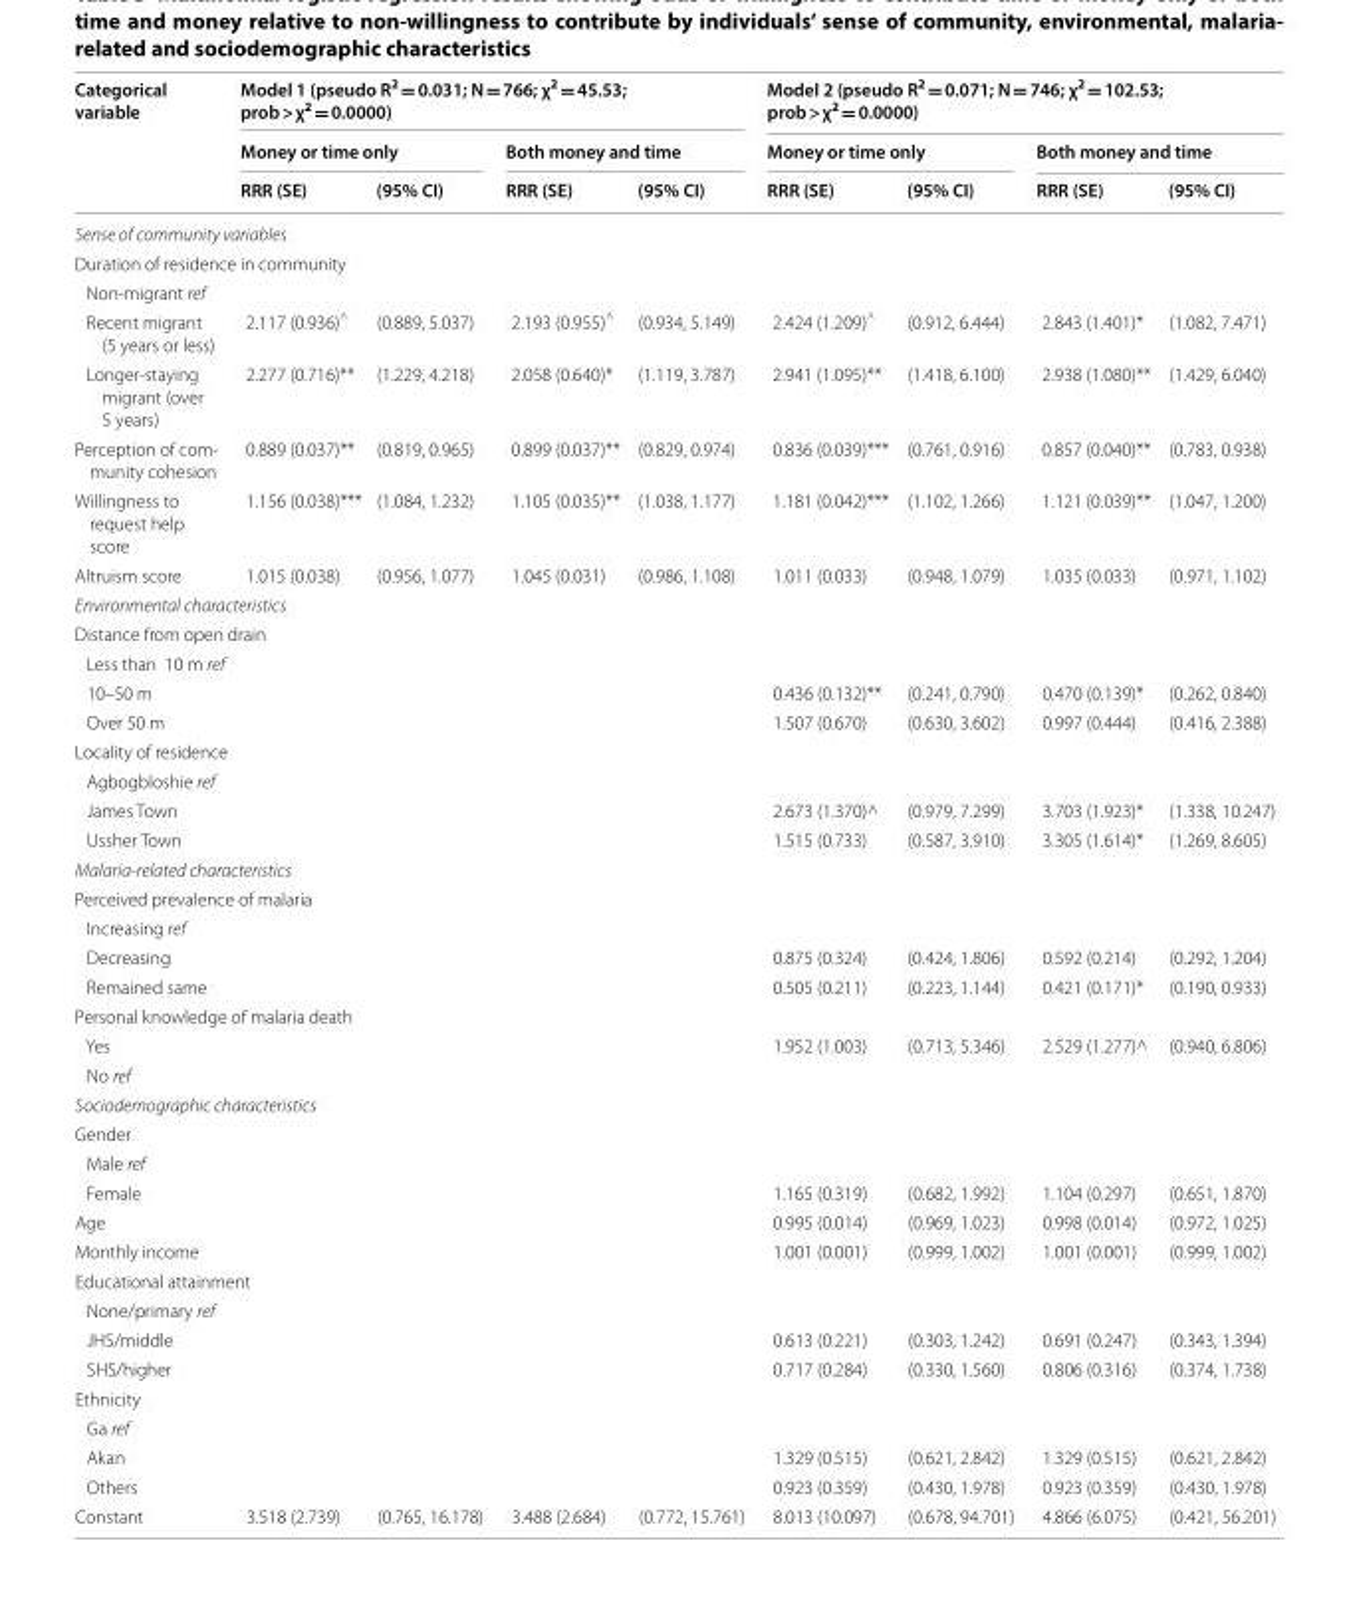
<table><thead><tr><td rowspan="3">Categorical variable</td><td colspan="4">Model 1 (pseudo R<sup>2</sup> = 0.031; N = 766; χ<sup>2</sup> = 45.53; prob &gt; χ<sup>2</sup> = 0.0000)</td><td colspan="4">Model 2 (pseudo R<sup>2</sup> = 0.071; N = 746; χ<sup>2</sup> = 102.53; prob &gt; χ<sup>2</sup> = 0.0000)</td></tr><tr><td colspan="2">Money or time only</td><td colspan="2">Both money and time</td><td colspan="2">Money or time only</td><td colspan="2">Both money and time</td></tr><tr><td>RRR (SE)</td><td>(95% CI)</td><td>RRR (SE)</td><td>(95% CI)</td><td>RRR (SE)</td><td>(95% CI)</td><td>RRR (SE)</td><td>(95% CI)</td></tr></thead><tbody><tr><td colspan="9">Sense of community variables</td></tr><tr><td colspan="9">Duration of residence in community</td></tr><tr><td colspan="9">Non‑migrant ref</td></tr><tr><td>Recent migrant (5 years or less)</td><td>2.117 (0.936)<sup>^</sup></td><td>(0.889, 5.037)</td><td>2.193 (0.955)<sup>^</sup></td><td>(0.934, 5.149)</td><td>2.424 (1.209)<sup>^</sup></td><td>(0.912, 6.444)</td><td>2.843 (1.401)*</td><td>(1.082, 7.471)</td></tr><tr><td>Longer‑staying migrant (over 5 years)</td><td>2.277 (0.716)**</td><td>(1.229, 4.218)</td><td>2.058 (0.640)*</td><td>(1.119, 3.787)</td><td>2.941 (1.095)**</td><td>(1.418, 6.100)</td><td>2.938 (1.080)**</td><td>(1.429, 6.040)</td></tr><tr><td>Perception of com‑ munity cohesion</td><td>0.889 (0.037)**</td><td>(0.819, 0.965)</td><td>0.899 (0.037)**</td><td>(0.829, 0.974)</td><td>0.836 (0.039)***</td><td>(0.761, 0.916)</td><td>0.857 (0.040)**</td><td>(0.783, 0.938)</td></tr><tr><td>Willingness to request help score</td><td>1.156 (0.038)***</td><td>(1.084, 1.232)</td><td>1.105 (0.035)**</td><td>(1.038, 1.177)</td><td>1.181 (0.042)***</td><td>(1.102, 1.266)</td><td>1.121 (0.039)**</td><td>(1.047, 1.200)</td></tr><tr><td>Altruism score</td><td>1.015 (0.038)</td><td>(0.956, 1.077)</td><td>1.045 (0.031)</td><td>(0.986, 1.108)</td><td>1.011 (0.033)</td><td>(0.948, 1.079)</td><td>1.035 (0.033)</td><td>(0.971, 1.102)</td></tr><tr><td colspan="9">Environmental characteristics</td></tr><tr><td colspan="9">Distance from open drain</td></tr><tr><td colspan="9">Less than 10 m ref</td></tr><tr><td>10–50 m</td><td></td><td></td><td></td><td></td><td>0.436 (0.132)**</td><td>(0.241, 0.790)</td><td>0.470 (0.139)*</td><td>(0.262, 0.840)</td></tr><tr><td>Over 50 m</td><td></td><td></td><td></td><td></td><td>1.507 (0.670)</td><td>(0.630, 3.602)</td><td>0.997 (0.444)</td><td>(0.416, 2.388)</td></tr><tr><td colspan="9">Locality of residence</td></tr><tr><td colspan="9">Agbogbloshie ref</td></tr><tr><td>James Town</td><td></td><td></td><td></td><td></td><td>2.673 (1.370)^</td><td>(0.979, 7.299)</td><td>3.703 (1.923)*</td><td>(1.338, 10.247)</td></tr><tr><td>Ussher Town</td><td></td><td></td><td></td><td></td><td>1.515 (0.733)</td><td>(0.587, 3.910)</td><td>3.305 (1.614)*</td><td>(1.269, 8.605)</td></tr><tr><td colspan="9">Malaria‑related characteristics</td></tr><tr><td colspan="9">Perceived prevalence of malaria</td></tr><tr><td colspan="9">Increasing ref</td></tr><tr><td>Decreasing</td><td></td><td></td><td></td><td></td><td>0.875 (0.324)</td><td>(0.424, 1.806)</td><td>0.592 (0.214)</td><td>(0.292, 1.204)</td></tr><tr><td>Remained same</td><td></td><td></td><td></td><td></td><td>0.505 (0.211)</td><td>(0.223, 1.144)</td><td>0.421 (0.171)*</td><td>(0.190, 0.933)</td></tr><tr><td colspan="9">Personal knowledge of malaria death</td></tr><tr><td>Yes</td><td></td><td></td><td></td><td></td><td>1.952 (1.003)</td><td>(0.713, 5.346)</td><td>2.529 (1.277)^</td><td>(0.940, 6.806)</td></tr><tr><td colspan="9">No ref</td></tr><tr><td colspan="9">Sociodemographic characteristics</td></tr><tr><td colspan="9">Gender</td></tr><tr><td colspan="9">Male ref</td></tr><tr><td>Female</td><td></td><td></td><td></td><td></td><td>1.165 (0.319)</td><td>(0.682, 1.992)</td><td>1.104 (0.297)</td><td>(0.651, 1.870)</td></tr><tr><td>Age</td><td></td><td></td><td></td><td></td><td>0.995 (0.014)</td><td>(0.969, 1.023)</td><td>0.998 (0.014)</td><td>(0.972, 1.025)</td></tr><tr><td>Monthly income</td><td></td><td></td><td></td><td></td><td>1.001 (0.001)</td><td>(0.999, 1.002)</td><td>1.001 (0.001)</td><td>(0.999, 1.002)</td></tr><tr><td colspan="9">Educational attainment</td></tr><tr><td colspan="9">None/primary ref</td></tr><tr><td>JHS/middle</td><td></td><td></td><td></td><td></td><td>0.613 (0.221)</td><td>(0.303, 1.242)</td><td>0.691 (0.247)</td><td>(0.343, 1.394)</td></tr><tr><td>SHS/higher</td><td></td><td></td><td></td><td></td><td>0.717 (0.284)</td><td>(0.330, 1.560)</td><td>0.806 (0.316)</td><td>(0.374, 1.738)</td></tr><tr><td colspan="9">Ethnicity</td></tr><tr><td colspan="9">Ga ref</td></tr><tr><td>Akan</td><td></td><td></td><td></td><td></td><td>1.329 (0.515)</td><td>(0.621, 2.842)</td><td>1.329 (0.515)</td><td>(0.621, 2.842)</td></tr><tr><td>Others</td><td></td><td></td><td></td><td></td><td>0.923 (0.359)</td><td>(0.430, 1.978)</td><td>0.923 (0.359)</td><td>(0.430, 1.978)</td></tr><tr><td>Constant</td><td>3.518 (2.739)</td><td>(0.765, 16.178)</td><td>3.488 (2.684)</td><td>(0.772, 15.761)</td><td>8.013 (10.097)</td><td>(0.678, 94.701)</td><td>4.866 (6.075)</td><td>(0.421, 56.201)</td></tr></tbody></table>